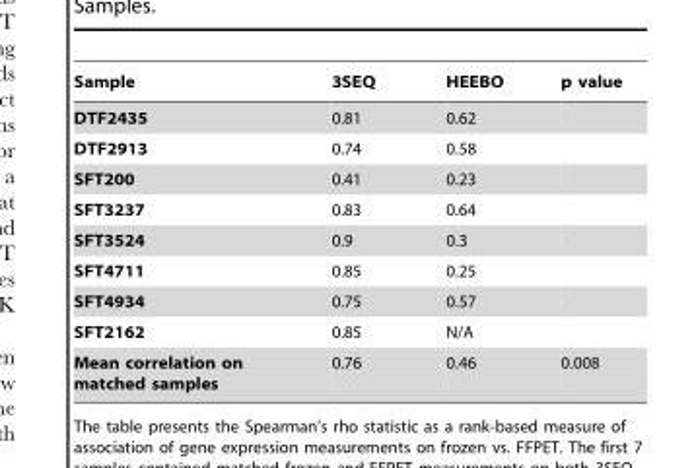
<table><thead><tr><td>Sample</td><td>3SEQ</td><td>HEEBO</td><td>p value</td></tr></thead><tbody><tr><td>DTF2435</td><td>0.81</td><td>0.62</td><td></td></tr><tr><td>DTF2913</td><td>0.74</td><td>0.58</td><td></td></tr><tr><td>SFT200</td><td>0.41</td><td>0.23</td><td></td></tr><tr><td>SFT3237</td><td>0.83</td><td>0.64</td><td></td></tr><tr><td>SFT3524</td><td>0.9</td><td>0.3</td><td></td></tr><tr><td>SFT4711</td><td>0.85</td><td>0.25</td><td></td></tr><tr><td>SFT4934</td><td>0.75</td><td>0.57</td><td></td></tr><tr><td>SFT2162</td><td>0.85</td><td>N/A</td><td></td></tr><tr><td>Mean correlation on matched samples</td><td>0.76</td><td>0.46</td><td>0.008</td></tr></tbody></table>